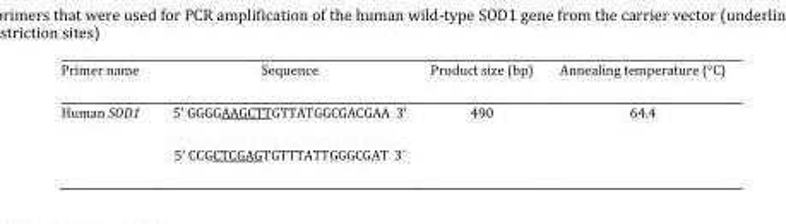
<table><thead><tr><td>Primer name</td><td>Sequence</td><td>Product size (bp)</td><td>Annealing temperature (°C)</td></tr></thead><tbody><tr><td>Human SOD1</td><td>5&#x27; GGGGAAGCTTGTTATGGCGACGAA 3&#x27; 5&#x27; CCGCTCGAGTGTTTATTGGGCGAT 3&#x27;</td><td>490</td><td>64.4</td></tr></tbody></table>